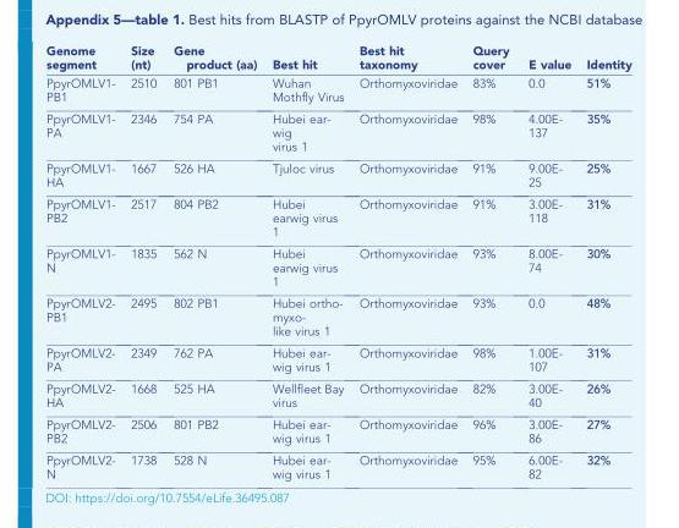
<table><thead><tr><td>Genome segment</td><td>Size (nt)</td><td>Gene product (aa)</td><td>Best hit</td><td>Best hit taxonomy</td><td>Query cover</td><td>E value</td><td>Identity</td></tr></thead><tbody><tr><td>PpyrOMLV1- PB1</td><td>2510</td><td>801 PB1</td><td>Wuhan Mothfly Virus</td><td>Orthomyxoviridae</td><td>83%</td><td>0.0</td><td>51%</td></tr><tr><td>PpyrOMLV1- PA</td><td>2346</td><td>754 PA</td><td>Hubei ear- wig virus 1</td><td>Orthomyxoviridae</td><td>98%</td><td>4.00E- 137</td><td>35%</td></tr><tr><td>PpyrOMLV1- HA</td><td>1667</td><td>526 HA</td><td>Tjuloc virus</td><td>Orthomyxoviridae</td><td>91%</td><td>9.00E- 25</td><td>25%</td></tr><tr><td>PpyrOMLV1- PB2</td><td>2517</td><td>804 PB2</td><td>Hubei earwig virus 1</td><td>Orthomyxoviridae</td><td>91%</td><td>3.00E- 118</td><td>31%</td></tr><tr><td>PpyrOMLV1- N</td><td>1835</td><td>562 N</td><td>Hubei earwig virus 1</td><td>Orthomyxoviridae</td><td>93%</td><td>8.00E- 74</td><td>30%</td></tr><tr><td>PpyrOMLV2- PB1</td><td>2495</td><td>802 PB1</td><td>Hubei ortho- myxo- like virus 1</td><td>Orthomyxoviridae</td><td>93%</td><td>0.0</td><td>48%</td></tr><tr><td>PpyrOMLV2- PA</td><td>2349</td><td>762 PA</td><td>Hubei ear- wig virus 1</td><td>Orthomyxoviridae</td><td>98%</td><td>1.00E- 107</td><td>31%</td></tr><tr><td>PpyrOMLV2- HA</td><td>1668</td><td>525 HA</td><td>Wellfleet Bay virus</td><td>Orthomyxoviridae</td><td>82%</td><td>3.00E- 40</td><td>26%</td></tr><tr><td>PpyrOMLV2- PB2</td><td>2506</td><td>801 PB2</td><td>Hubei ear- wig virus 1</td><td>Orthomyxoviridae</td><td>96%</td><td>3.00E- 86</td><td>27%</td></tr><tr><td>PpyrOMLV2- N</td><td>1738</td><td>528 N</td><td>Hubei ear- wig virus 1</td><td>Orthomyxoviridae</td><td>95%</td><td>6.00E- 82</td><td>32%</td></tr></tbody></table>